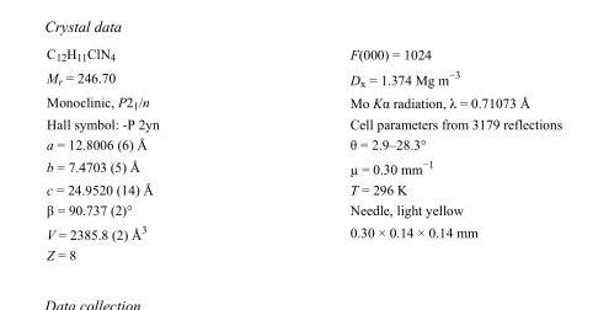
<table><tbody><tr><td>C<sub>12</sub>H<sub>11</sub>ClN<sub>4</sub></td><td>F(000) = 1024</td></tr><tr><td>M<sub>r</sub> = 246.70</td><td>D<sub>x</sub> = 1.374 Mg m<sup>−3</sup></td></tr><tr><td>Monoclinic, P2<sub>1</sub>/n</td><td>Mo Kα radiation, λ = 0.71073 Å</td></tr><tr><td>Hall symbol: -P 2yn</td><td>Cell parameters from 3179 reflections</td></tr><tr><td>a = 12.8006 (6) Å</td><td>θ = 2.9–28.3°</td></tr><tr><td>b = 7.4703 (5) Å</td><td>µ = 0.30 mm<sup>−1</sup></td></tr><tr><td>c = 24.9520 (14) Å</td><td>T = 296 K</td></tr><tr><td>β = 90.737 (2)°</td><td>Needle, light yellow</td></tr><tr><td>V = 2385.8 (2) Å<sup>3</sup></td><td>0.30 × 0.14 × 0.14 mm</td></tr><tr><td>Z = 8</td><td></td></tr></tbody></table>